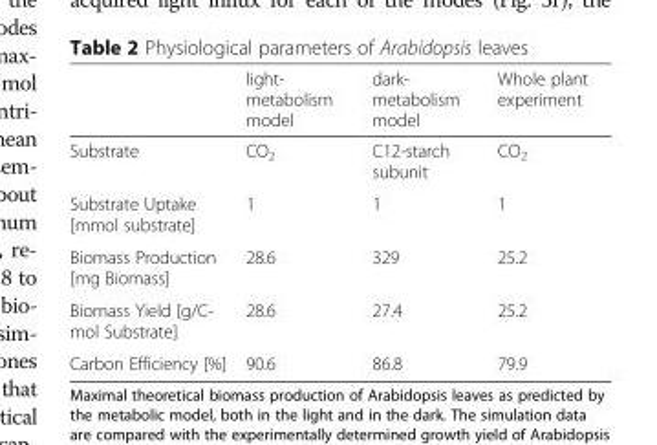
<table><thead><tr><td></td><td>light- metabolism model</td><td>dark- metabolism model</td><td>Whole plant experiment</td></tr></thead><tbody><tr><td>Substrate</td><td>CO<sub>2</sub></td><td>C12-starch subunit</td><td>CO<sub>2</sub></td></tr><tr><td>Substrate Uptake [mmol substrate]</td><td>1</td><td>1</td><td>1</td></tr><tr><td>Biomass Production [mg Biomass]</td><td>28.6</td><td>329</td><td>25.2</td></tr><tr><td>Biomass Yield [g/C- mol Substrate]</td><td>28.6</td><td>27.4</td><td>25.2</td></tr><tr><td>Carbon Efficiency [%]</td><td>90.6</td><td>86.8</td><td>79.9</td></tr></tbody></table>